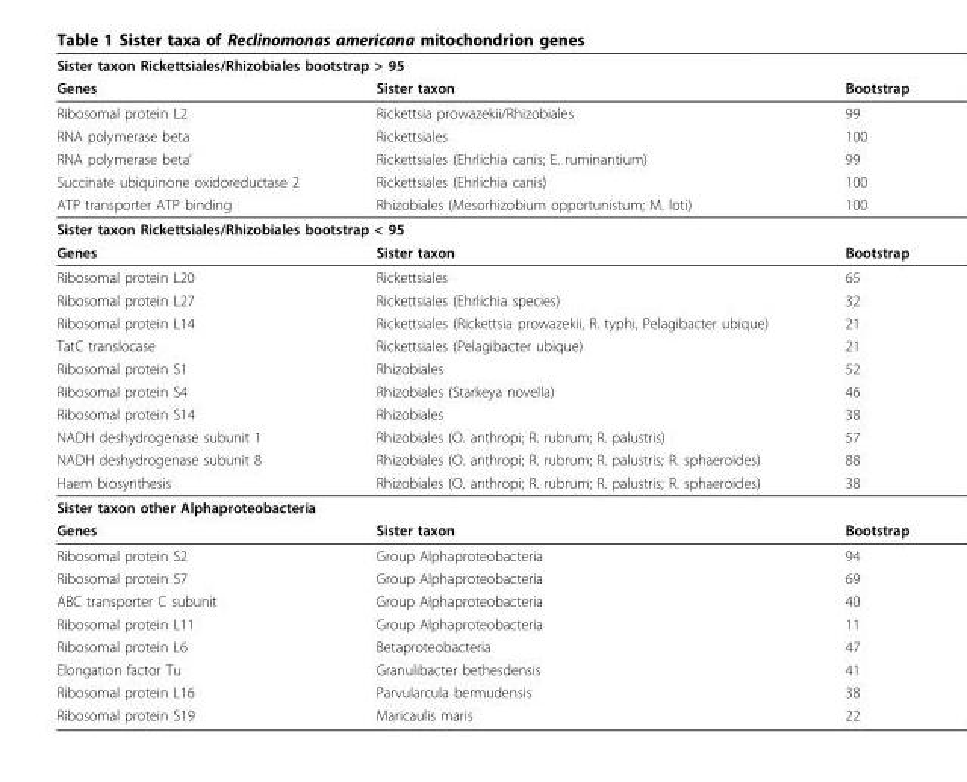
<table><thead><tr><td colspan="3">Sister taxon Rickettsiales/Rhizobiales bootstrap &gt; 95</td></tr><tr><td>Genes</td><td>Sister taxon</td><td>Bootstrap</td></tr></thead><tbody><tr><td>Ribosomal protein L2</td><td>Rickettsia prowazekii/Rhizobiales</td><td>99</td></tr><tr><td>RNA polymerase beta</td><td>Rickettsiales</td><td>100</td></tr><tr><td>RNA polymerase beta’</td><td>Rickettsiales (Ehrlichia canis; E. ruminantium)</td><td>99</td></tr><tr><td>Succinate ubiquinone oxidoreductase 2</td><td>Rickettsiales (Ehrlichia canis)</td><td>100</td></tr><tr><td>ATP transporter ATP binding</td><td>Rhizobiales (Mesorhizobium opportunistum; M. loti)</td><td>100</td></tr><tr><td colspan="3">Sister taxon Rickettsiales/Rhizobiales bootstrap &lt; 95</td></tr><tr><td>Genes</td><td>Sister taxon</td><td>Bootstrap</td></tr><tr><td>Ribosomal protein L20</td><td>Rickettsiales</td><td>65</td></tr><tr><td>Ribosomal protein L27</td><td>Rickettsiales (Ehrlichia species)</td><td>32</td></tr><tr><td>Ribosomal protein L14</td><td>Rickettsiales (Rickettsia prowazekii, R. typhi, Pelagibacter ubique)</td><td>21</td></tr><tr><td>TatC translocase</td><td>Rickettsiales (Pelagibacter ubique)</td><td>21</td></tr><tr><td>Ribosomal protein S1</td><td>Rhizobiales</td><td>52</td></tr><tr><td>Ribosomal protein S4</td><td>Rhizobiales (Starkeya novella)</td><td>46</td></tr><tr><td>Ribosomal protein S14</td><td>Rhizobiales</td><td>38</td></tr><tr><td>NADH deshydrogenase subunit 1</td><td>Rhizobiales (O. anthropi; R. rubrum; R. palustris)</td><td>57</td></tr><tr><td>NADH deshydrogenase subunit 8</td><td>Rhizobiales (O. anthropi; R. rubrum; R. palustris; R. sphaeroides)</td><td>88</td></tr><tr><td>Haem biosynthesis</td><td>Rhizobiales (O. anthropi; R. rubrum; R. palustris; R. sphaeroides)</td><td>38</td></tr><tr><td colspan="3">Sister taxon other Alphaproteobacteria</td></tr><tr><td>Genes</td><td>Sister taxon</td><td>Bootstrap</td></tr><tr><td>Ribosomal protein S2</td><td>Group Alphaproteobacteria</td><td>94</td></tr><tr><td>Ribosomal protein S7</td><td>Group Alphaproteobacteria</td><td>69</td></tr><tr><td>ABC transporter C subunit</td><td>Group Alphaproteobacteria</td><td>40</td></tr><tr><td>Ribosomal protein L11</td><td>Group Alphaproteobacteria</td><td>11</td></tr><tr><td>Ribosomal protein L6</td><td>Betaproteobacteria</td><td>47</td></tr><tr><td>Elongation factor Tu</td><td>Granulibacter bethesdensis</td><td>41</td></tr><tr><td>Ribosomal protein L16</td><td>Parvularcula bermudensis</td><td>38</td></tr><tr><td>Ribosomal protein S19</td><td>Maricaulis maris</td><td>22</td></tr></tbody></table>